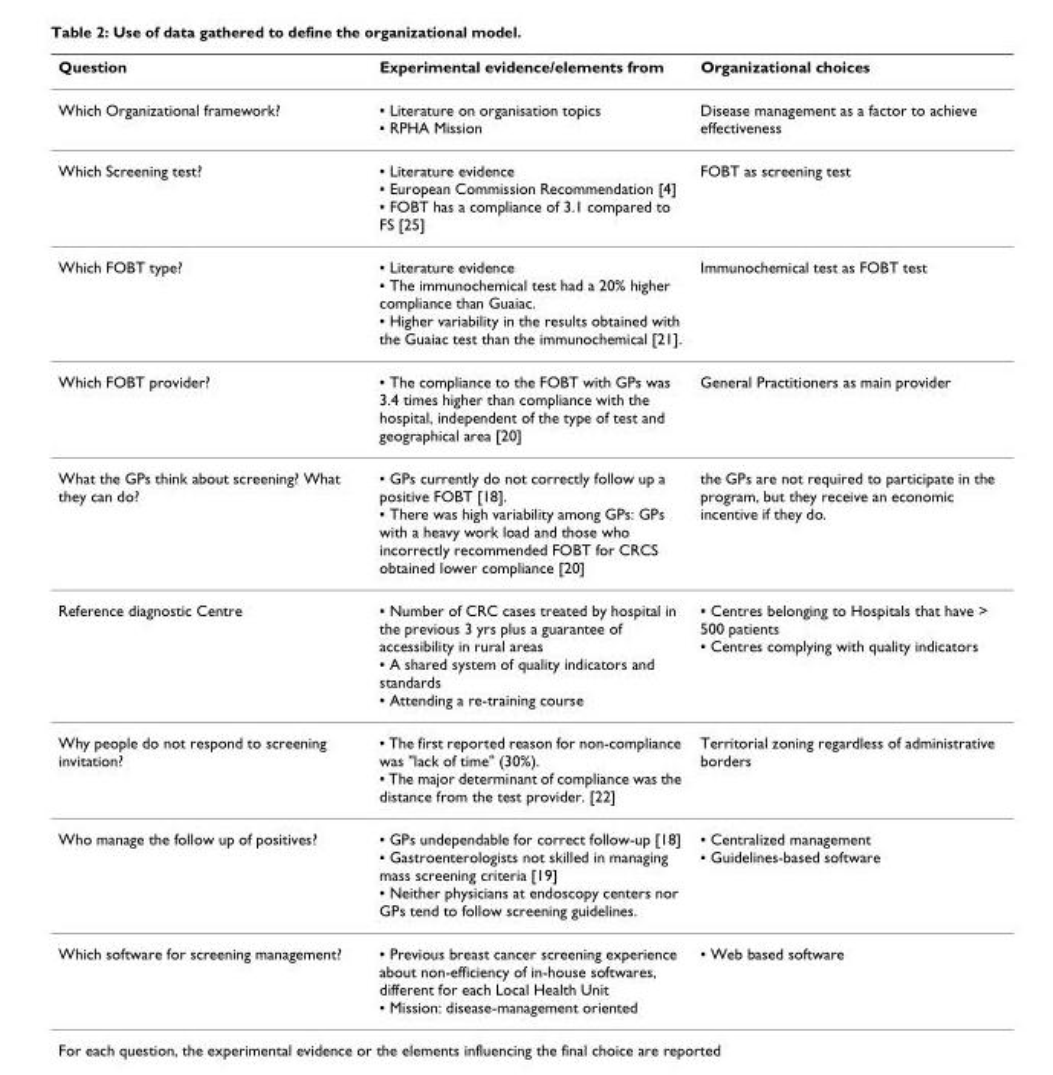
<table><thead><tr><td>Question</td><td>Experimental evidence/elements from</td><td>Organizational choices</td></tr></thead><tbody><tr><td>Which Organizational framework?</td><td>▪ Literature on organisation topics ▪ RPHA Mission</td><td>Disease management as a factor to achieve effectiveness</td></tr><tr><td>Which Screening test?</td><td>▪ Literature evidence ▪ European Commission Recommendation [4] ▪ FOBT has a compliance of 3.1 compared to FS [25]</td><td>FOBT as screening test</td></tr><tr><td>Which FOBT type?</td><td>▪ Literature evidence ▪ The immunochemical test had a 20% higher compliance than Guaiac. ▪ Higher variability in the results obtained with the Guaiac test than the immunochemical [21].</td><td>Immunochemical test as FOBT test</td></tr><tr><td>Which FOBT provider?</td><td>▪ The compliance to the FOBT with GPs was 3.4 times higher than compliance with the hospital, independent of the type of test and geographical area [20]</td><td>General Practitioners as main provider</td></tr><tr><td>What the GPs think about screening? What they can do?</td><td>▪ GPs currently do not correctly follow up a positive FOBT [18]. ▪ There was high variability among GPs: GPs with a heavy work load and those who incorrectly recommended FOBT for CRCS obtained lower compliance [20]</td><td>the GPs are not required to participate in the program, but they receive an economic incentive if they do.</td></tr><tr><td>Reference diagnostic Centre</td><td>▪ Number of CRC cases treated by hospital in the previous 3 yrs plus a guarantee of accessibility in rural areas ▪ A shared system of quality indicators and standards ▪ Attending a re-training course</td><td>▪ Centres belonging to Hospitals that have &gt; 500 patients ▪ Centres complying with quality indicators</td></tr><tr><td>Why people do not respond to screening invitation?</td><td>▪ The first reported reason for non-compliance was &quot;lack of time&quot; (30%). ▪ The major determinant of compliance was the distance from the test provider. [22]</td><td>Territorial zoning regardless of administrative borders</td></tr><tr><td>Who manage the follow up of positives?</td><td>▪ GPs undependable for correct follow-up [18] ▪ Gastroenterologists not skilled in managing mass screening criteria [19] ▪ Neither physicians at endoscopy centers nor GPs tend to follow screening guidelines.</td><td>▪ Centralized management ▪ Guidelines-based software</td></tr><tr><td>Which software for screening management?</td><td>▪ Previous breast cancer screening experience about non-efficiency of in-house softwares, different for each Local Health Unit ▪ Mission: disease-management oriented</td><td>▪ Web based software</td></tr></tbody></table>